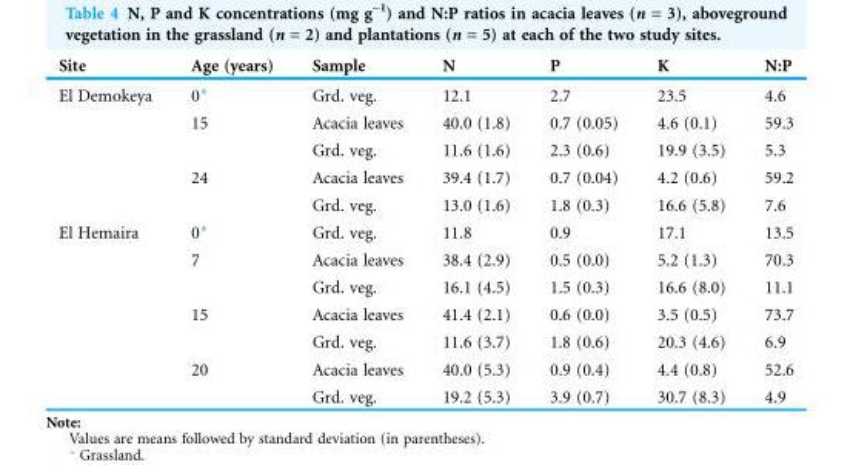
<table><thead><tr><td>Site</td><td>Age (years)</td><td>Sample</td><td>N</td><td>P</td><td>K</td><td>N:P</td></tr></thead><tbody><tr><td rowspan="5">El Demokeya</td><td>0*</td><td>Grd. veg.</td><td>12.1</td><td>2.7</td><td>23.5</td><td>4.6</td></tr><tr><td>15</td><td>Acacia leaves</td><td>40.0 (1.8)</td><td>0.7 (0.05)</td><td>4.6 (0.1)</td><td>59.3</td></tr><tr><td></td><td>Grd. veg.</td><td>11.6 (1.6)</td><td>2.3 (0.6)</td><td>19.9 (3.5)</td><td>5.3</td></tr><tr><td>24</td><td>Acacia leaves</td><td>39.4 (1.7)</td><td>0.7 (0.04)</td><td>4.2 (0.6)</td><td>59.2</td></tr><tr><td></td><td>Grd. veg.</td><td>13.0 (1.6)</td><td>1.8 (0.3)</td><td>16.6 (5.8)</td><td>7.6</td></tr><tr><td rowspan="7">El Hemaira</td><td>0*</td><td>Grd. veg.</td><td>11.8</td><td>0.9</td><td>17.1</td><td>13.5</td></tr><tr><td>7</td><td>Acacia leaves</td><td>38.4 (2.9)</td><td>0.5 (0.0)</td><td>5.2 (1.3)</td><td>70.3</td></tr><tr><td></td><td>Grd. veg.</td><td>16.1 (4.5)</td><td>1.5 (0.3)</td><td>16.6 (8.0)</td><td>11.1</td></tr><tr><td>15</td><td>Acacia leaves</td><td>41.4 (2.1)</td><td>0.6 (0.0)</td><td>3.5 (0.5)</td><td>73.7</td></tr><tr><td></td><td>Grd. veg.</td><td>11.6 (3.7)</td><td>1.8 (0.6)</td><td>20.3 (4.6)</td><td>6.9</td></tr><tr><td>20</td><td>Acacia leaves</td><td>40.0 (5.3)</td><td>0.9 (0.4)</td><td>4.4 (0.8)</td><td>52.6</td></tr><tr><td></td><td>Grd. veg.</td><td>19.2 (5.3)</td><td>3.9 (0.7)</td><td>30.7 (8.3)</td><td>4.9</td></tr></tbody></table>